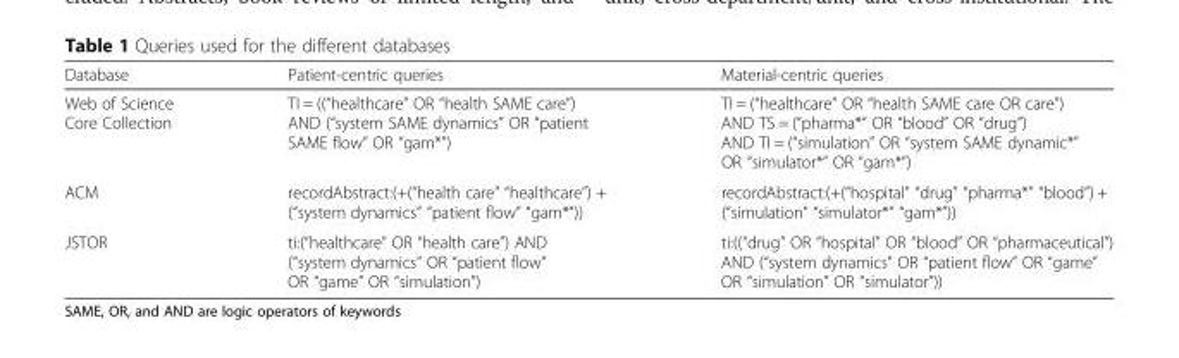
<table><thead><tr><td>Database</td><td>Patient-centric queries</td><td>Material-centric queries</td></tr></thead><tbody><tr><td>Web of Science Core Collection</td><td>TI = ((“healthcare” OR “health SAME care”) AND (“system SAME dynamics” OR “patient SAME flow” OR “gam*”)</td><td>TI = (“healthcare” OR “health SAME care OR care”) AND TS = (“pharma*” OR “blood” OR “drug”) AND TI = (“simulation” OR “system SAME dynamic*” OR “simulator*” OR “gam*”)</td></tr><tr><td>ACM</td><td>recordAbstract:(+(“health care” “healthcare”) + (“system dynamics” “patient flow” “gam*”))</td><td>recordAbstract:(+(“hospital” “drug” “pharma*” “blood”) + (“simulation” “simulator*” “gam*”))</td></tr><tr><td>JSTOR</td><td>ti:(“healthcare” OR “health care”) AND (“system dynamics” OR “patient flow” OR “game” OR “simulation”)</td><td>ti:((“drug” OR “hospital” OR “blood” OR “pharmaceutical”) AND (“system dynamics” OR “patient flow” OR “game” OR “simulation” OR “simulator”))</td></tr></tbody></table>